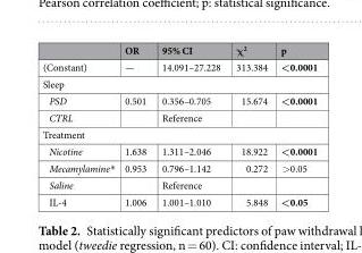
<table><thead><tr><td></td><td>OR</td><td>95% CI</td><td>χ<sup>2</sup></td><td>p</td></tr></thead><tbody><tr><td>(Constant)</td><td>—</td><td>14.091–27.228</td><td>313.384</td><td>&lt;0.0001</td></tr><tr><td colspan="5">Sleep</td></tr><tr><td>PSD</td><td>0.501</td><td>0.356–0.705</td><td>15.674</td><td>&lt;0.0001</td></tr><tr><td>CTRL</td><td></td><td>Reference</td><td></td><td></td></tr><tr><td colspan="5">Treatment</td></tr><tr><td>Nicotine</td><td>1.638</td><td>1.311–2.046</td><td>18.922</td><td>&lt;0.0001</td></tr><tr><td>Mecamylamine*</td><td>0.953</td><td>0.796–1.142</td><td>0.272</td><td>&gt;0.05</td></tr><tr><td>Saline</td><td></td><td>Reference</td><td></td><td></td></tr><tr><td>IL-4</td><td>1.006</td><td>1.001–1.010</td><td>5.848</td><td>&lt;0.05</td></tr></tbody></table>